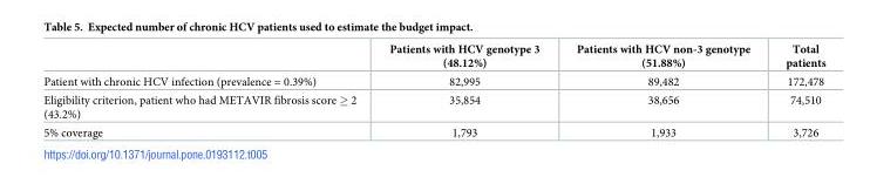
<table><thead><tr><td></td><td>Patients with HCV genotype 3 (48.12%)</td><td>Patients with HCV non-3 genotype (51.88%)</td><td>Total patients</td></tr></thead><tbody><tr><td>Patient with chronic HCV infection (prevalence = 0.39%)</td><td>82,995</td><td>89,482</td><td>172,478</td></tr><tr><td>Eligibility criterion, patient who had METAVIR fibrosis score ≥ 2 (43.2%)</td><td>35,854</td><td>38,656</td><td>74,510</td></tr><tr><td>5% coverage</td><td>1,793</td><td>1,933</td><td>3,726</td></tr></tbody></table>